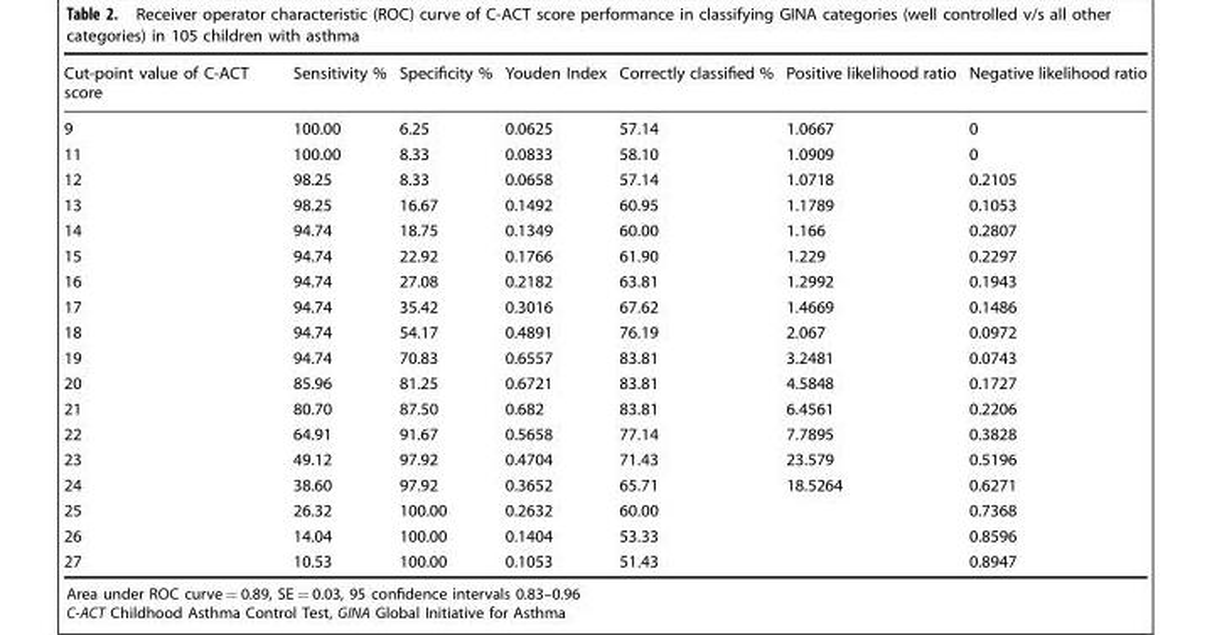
<table><thead><tr><td>Cut-point value of C-ACT score</td><td>Sensitivity %</td><td>Specificity %</td><td>Youden Index</td><td>Correctly classified %</td><td>Positive likelihood ratio</td><td>Negative likelihood ratio</td></tr></thead><tbody><tr><td>9</td><td>100.00</td><td>6.25</td><td>0.0625</td><td>57.14</td><td>1.0667</td><td>0</td></tr><tr><td>11</td><td>100.00</td><td>8.33</td><td>0.0833</td><td>58.10</td><td>1.0909</td><td>0</td></tr><tr><td>12</td><td>98.25</td><td>8.33</td><td>0.0658</td><td>57.14</td><td>1.0718</td><td>0.2105</td></tr><tr><td>13</td><td>98.25</td><td>16.67</td><td>0.1492</td><td>60.95</td><td>1.1789</td><td>0.1053</td></tr><tr><td>14</td><td>94.74</td><td>18.75</td><td>0.1349</td><td>60.00</td><td>1.166</td><td>0.2807</td></tr><tr><td>15</td><td>94.74</td><td>22.92</td><td>0.1766</td><td>61.90</td><td>1.229</td><td>0.2297</td></tr><tr><td>16</td><td>94.74</td><td>27.08</td><td>0.2182</td><td>63.81</td><td>1.2992</td><td>0.1943</td></tr><tr><td>17</td><td>94.74</td><td>35.42</td><td>0.3016</td><td>67.62</td><td>1.4669</td><td>0.1486</td></tr><tr><td>18</td><td>94.74</td><td>54.17</td><td>0.4891</td><td>76.19</td><td>2.067</td><td>0.0972</td></tr><tr><td>19</td><td>94.74</td><td>70.83</td><td>0.6557</td><td>83.81</td><td>3.2481</td><td>0.0743</td></tr><tr><td>20</td><td>85.96</td><td>81.25</td><td>0.6721</td><td>83.81</td><td>4.5848</td><td>0.1727</td></tr><tr><td>21</td><td>80.70</td><td>87.50</td><td>0.682</td><td>83.81</td><td>6.4561</td><td>0.2206</td></tr><tr><td>22</td><td>64.91</td><td>91.67</td><td>0.5658</td><td>77.14</td><td>7.7895</td><td>0.3828</td></tr><tr><td>23</td><td>49.12</td><td>97.92</td><td>0.4704</td><td>71.43</td><td>23.579</td><td>0.5196</td></tr><tr><td>24</td><td>38.60</td><td>97.92</td><td>0.3652</td><td>65.71</td><td>18.5264</td><td>0.6271</td></tr><tr><td>25</td><td>26.32</td><td>100.00</td><td>0.2632</td><td>60.00</td><td></td><td>0.7368</td></tr><tr><td>26</td><td>14.04</td><td>100.00</td><td>0.1404</td><td>53.33</td><td></td><td>0.8596</td></tr><tr><td>27</td><td>10.53</td><td>100.00</td><td>0.1053</td><td>51.43</td><td></td><td>0.8947</td></tr></tbody></table>